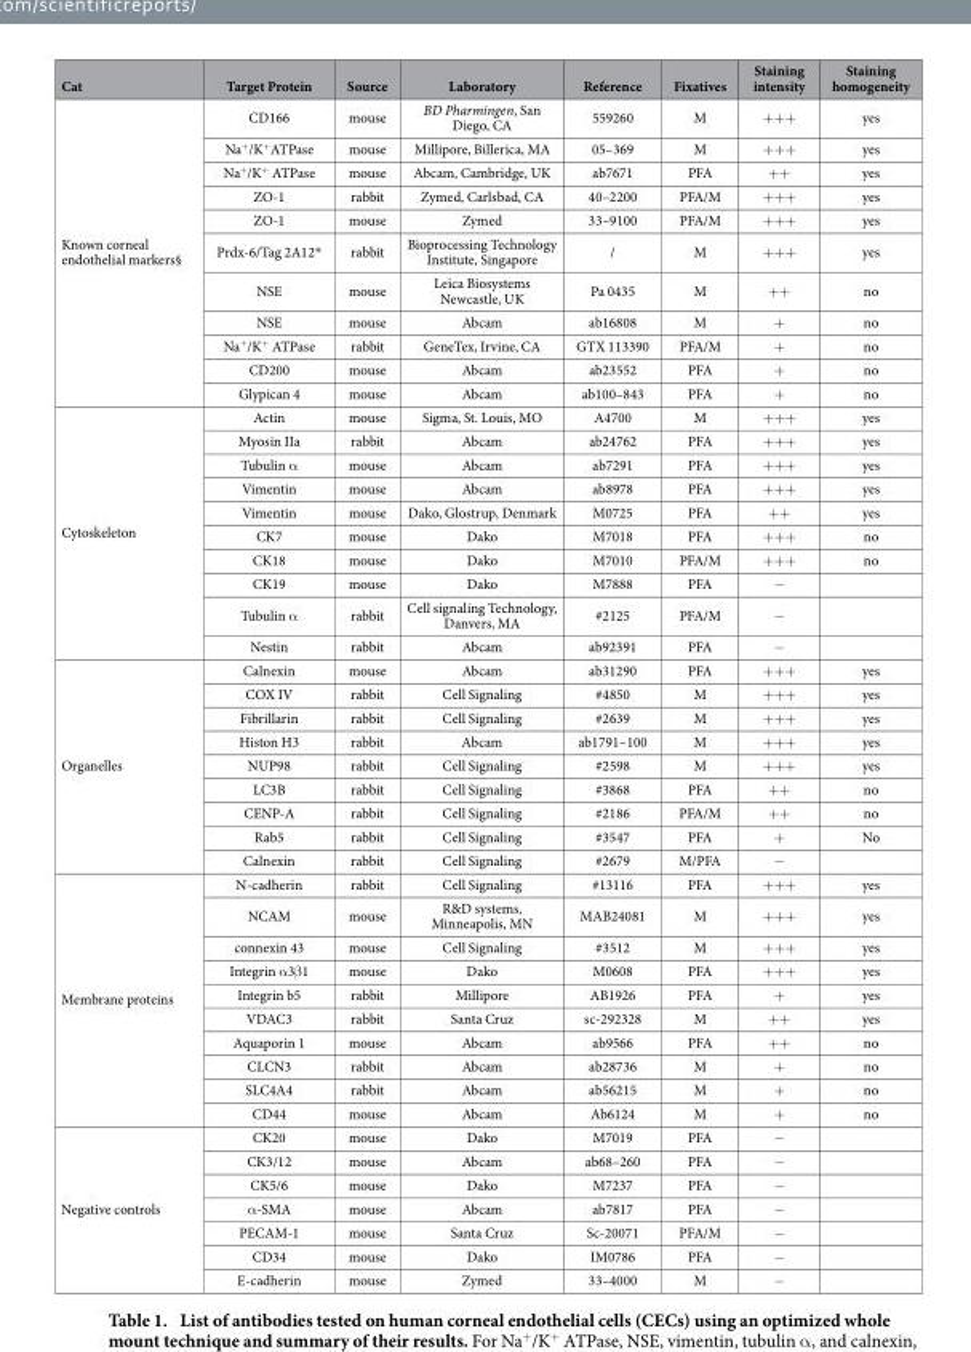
<table><thead><tr><td>Cat</td><td>Target Protein</td><td>Source</td><td>Laboratory</td><td>Reference</td><td>Fixatives</td><td>Staining intensity</td><td>Staining homogeneity</td></tr></thead><tbody><tr><td rowspan="11">Known corneal endothelial markers§</td><td>CD166</td><td>mouse</td><td>BD Pharmingen, San Diego, CA</td><td>559260</td><td>M</td><td>+ + +</td><td>yes</td></tr><tr><td>Na<sup>+</sup>/K<sup>+</sup>ATPase</td><td>mouse</td><td>Millipore, Billerica, MA</td><td>05–369</td><td>M</td><td>+ + +</td><td>yes</td></tr><tr><td>Na<sup>+</sup>/K<sup>+</sup> ATPase</td><td>mouse</td><td>Abcam, Cambridge, UK</td><td>ab7671</td><td>PFA</td><td>+ +</td><td>yes</td></tr><tr><td>ZO-1</td><td>rabbit</td><td>Zymed, Carlsbad, CA</td><td>40–2200</td><td>PFA/M</td><td>+ + +</td><td>yes</td></tr><tr><td>ZO-1</td><td>mouse</td><td>Zymed</td><td>33–9100</td><td>PFA/M</td><td>+ + +</td><td>yes</td></tr><tr><td>Prdx-6/Tag 2A12*</td><td>rabbit</td><td>Bioprocessing Technology Institute, Singapore</td><td>/</td><td>M</td><td>+ + +</td><td>yes</td></tr><tr><td>NSE</td><td>mouse</td><td>Leica Biosystems Newcastle, UK</td><td>Pa 0435</td><td>M</td><td>+ +</td><td>no</td></tr><tr><td>NSE</td><td>mouse</td><td>Abcam</td><td>ab16808</td><td>M</td><td>+</td><td>no</td></tr><tr><td>Na<sup>+</sup>/K<sup>+</sup> ATPase</td><td>rabbit</td><td>GeneTex, Irvine, CA</td><td>GTX 113390</td><td>PFA/M</td><td>+</td><td>no</td></tr><tr><td>CD200</td><td>mouse</td><td>Abcam</td><td>ab23552</td><td>PFA</td><td>+</td><td>no</td></tr><tr><td>Glypican 4</td><td>mouse</td><td>Abcam</td><td>ab100–843</td><td>PFA</td><td>+</td><td>no</td></tr><tr><td rowspan="10">Cytoskeleton</td><td>Actin</td><td>mouse</td><td>Sigma, St. Louis, MO</td><td>A4700</td><td>M</td><td>+ + +</td><td>yes</td></tr><tr><td>Myosin IIa</td><td>rabbit</td><td>Abcam</td><td>ab24762</td><td>PFA</td><td>+ + +</td><td>yes</td></tr><tr><td>Tubulin α</td><td>mouse</td><td>Abcam</td><td>ab7291</td><td>PFA</td><td>+ + +</td><td>yes</td></tr><tr><td>Vimentin</td><td>mouse</td><td>Abcam</td><td>ab8978</td><td>PFA</td><td>+ + +</td><td>yes</td></tr><tr><td>Vimentin</td><td>mouse</td><td>Dako, Glostrup, Denmark</td><td>M0725</td><td>PFA</td><td>+ +</td><td>yes</td></tr><tr><td>CK7</td><td>mouse</td><td>Dako</td><td>M7018</td><td>PFA</td><td>+ + +</td><td>no</td></tr><tr><td>CK18</td><td>mouse</td><td>Dako</td><td>M7010</td><td>PFA/M</td><td>+ + +</td><td>no</td></tr><tr><td>CK19</td><td>mouse</td><td>Dako</td><td>M7888</td><td>PFA</td><td>−</td><td></td></tr><tr><td>Tubulin α</td><td>rabbit</td><td>Cell signaling Technology, Danvers, MA</td><td>#2125</td><td>PFA/M</td><td>−</td><td></td></tr><tr><td>Nestin</td><td>rabbit</td><td>Abcam</td><td>ab92391</td><td>PFA</td><td>−</td><td></td></tr><tr><td rowspan="9">Organelles</td><td>Calnexin</td><td>mouse</td><td>Abcam</td><td>ab31290</td><td>PFA</td><td>+ + +</td><td>yes</td></tr><tr><td>COX IV</td><td>rabbit</td><td>Cell Signaling</td><td>#4850</td><td>M</td><td>+ + +</td><td>yes</td></tr><tr><td>Fibrillarin</td><td>rabbit</td><td>Cell Signaling</td><td>#2639</td><td>M</td><td>+ + +</td><td>yes</td></tr><tr><td>Histon H3</td><td>rabbit</td><td>Abcam</td><td>ab1791–100</td><td>M</td><td>+ + +</td><td>yes</td></tr><tr><td>NUP98</td><td>rabbit</td><td>Cell Signaling</td><td>#2598</td><td>M</td><td>+ + +</td><td>yes</td></tr><tr><td>LC3B</td><td>rabbit</td><td>Cell Signaling</td><td>#3868</td><td>PFA</td><td>+ +</td><td>no</td></tr><tr><td>CENP-A</td><td>rabbit</td><td>Cell Signaling</td><td>#2186</td><td>PFA/M</td><td>+ +</td><td>no</td></tr><tr><td>Rab5</td><td>rabbit</td><td>Cell Signaling</td><td>#3547</td><td>PFA</td><td>+</td><td>No</td></tr><tr><td>Calnexin</td><td>rabbit</td><td>Cell Signaling</td><td>#2679</td><td>M/PFA</td><td>−</td><td></td></tr><tr><td rowspan="10">Membrane proteins</td><td>N-cadherin</td><td>rabbit</td><td>Cell Signaling</td><td>#13116</td><td>PFA</td><td>+ + +</td><td>yes</td></tr><tr><td>NCAM</td><td>mouse</td><td>R&amp;D systems, Minneapolis, MN</td><td>MAB24081</td><td>M</td><td>+ + +</td><td>yes</td></tr><tr><td>connexin 43</td><td>mouse</td><td>Cell Signaling</td><td>#3512</td><td>M</td><td>+ + +</td><td>yes</td></tr><tr><td>Integrin α 3β 1</td><td>mouse</td><td>Dako</td><td>M0608</td><td>PFA</td><td>+ + +</td><td>yes</td></tr><tr><td>Integrin b5</td><td>rabbit</td><td>Millipore</td><td>AB1926</td><td>PFA</td><td>+</td><td>yes</td></tr><tr><td>VDAC3</td><td>rabbit</td><td>Santa Cruz</td><td>sc-292328</td><td>M</td><td>+ +</td><td>yes</td></tr><tr><td>Aquaporin 1</td><td>mouse</td><td>Abcam</td><td>ab9566</td><td>PFA</td><td>+ +</td><td>no</td></tr><tr><td>CLCN3</td><td>rabbit</td><td>Abcam</td><td>ab28736</td><td>M</td><td>+</td><td>no</td></tr><tr><td>SLC4A4</td><td>rabbit</td><td>Abcam</td><td>ab56215</td><td>M</td><td>+</td><td>no</td></tr><tr><td>CD44</td><td>mouse</td><td>Abcam</td><td>Ab6124</td><td>M</td><td>+</td><td>no</td></tr><tr><td rowspan="7">Negative controls</td><td>CK20</td><td>mouse</td><td>Dako</td><td>M7019</td><td>PFA</td><td>−</td><td></td></tr><tr><td>CK3/12</td><td>mouse</td><td>Abcam</td><td>ab68–260</td><td>PFA</td><td>−</td><td></td></tr><tr><td>CK5/6</td><td>mouse</td><td>Dako</td><td>M7237</td><td>PFA</td><td>−</td><td></td></tr><tr><td>α -SMA</td><td>mouse</td><td>Abcam</td><td>ab7817</td><td>PFA</td><td>−</td><td></td></tr><tr><td>PECAM-1</td><td>mouse</td><td>Santa Cruz</td><td>Sc-20071</td><td>PFA/M</td><td>−</td><td></td></tr><tr><td>CD34</td><td>mouse</td><td>Dako</td><td>IM0786</td><td>PFA</td><td>−</td><td></td></tr><tr><td>E-cadherin</td><td>mouse</td><td>Zymed</td><td>33–4000</td><td>M</td><td>−</td><td></td></tr></tbody></table>